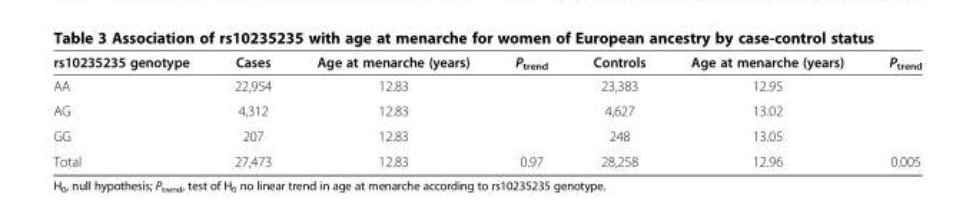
<table><thead><tr><td>rs10235235 genotype</td><td>Cases</td><td>Age at menarche (years)</td><td>P<sub>trend</sub></td><td>Controls</td><td>Age at menarche (years)</td><td>P<sub>trend</sub></td></tr></thead><tbody><tr><td>AA</td><td>22,954</td><td>12.83</td><td></td><td>23,383</td><td>12.95</td><td></td></tr><tr><td>AG</td><td>4,312</td><td>12.83</td><td></td><td>4,627</td><td>13.02</td><td></td></tr><tr><td>GG</td><td>207</td><td>12.83</td><td></td><td>248</td><td>13.05</td><td></td></tr><tr><td>Total</td><td>27,473</td><td>12.83</td><td>0.97</td><td>28,258</td><td>12.96</td><td>0.005</td></tr></tbody></table>